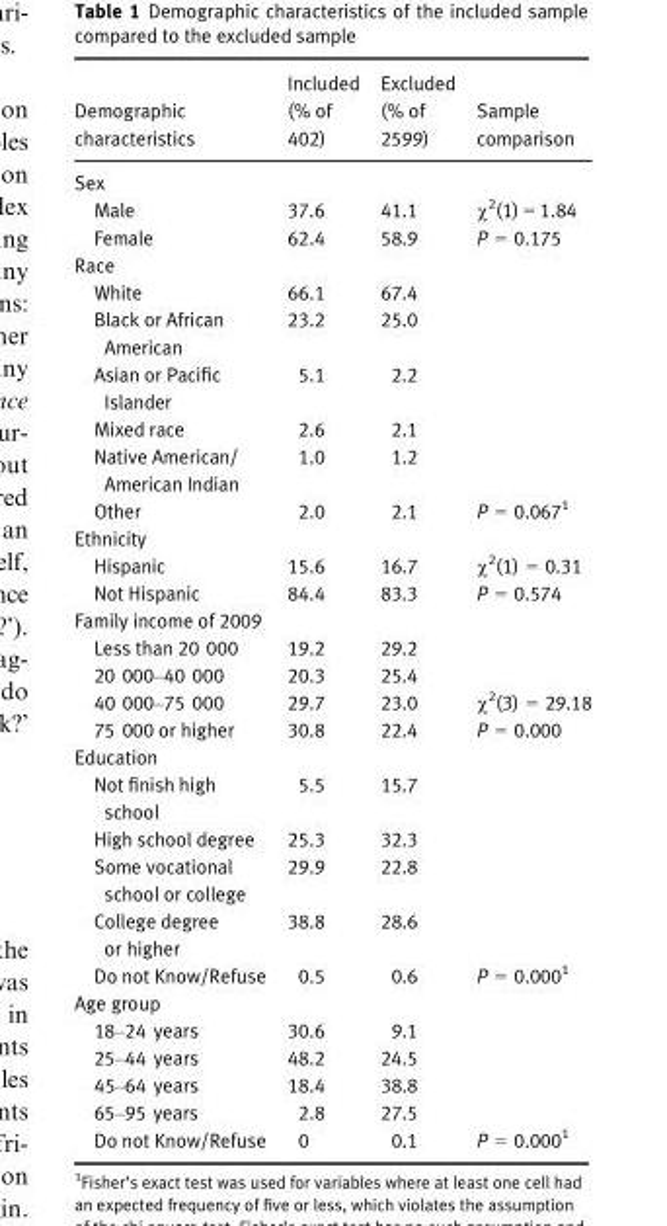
<table><thead><tr><td>Demographic characteristics</td><td>Included (% of 402)</td><td>Excluded (% of 2599)</td><td>Sample comparison</td></tr></thead><tbody><tr><td colspan="4">Sex</td></tr><tr><td>Male</td><td>37.6</td><td>41.1</td><td>χ<sup>2</sup>(1) = 1.84</td></tr><tr><td>Female</td><td>62.4</td><td>58.9</td><td>P = 0.175</td></tr><tr><td colspan="4">Race</td></tr><tr><td>White</td><td>66.1</td><td>67.4</td><td></td></tr><tr><td>Black or African American</td><td>23.2</td><td>25.0</td><td></td></tr><tr><td>Asian or Pacific Islander</td><td>5.1</td><td>2.2</td><td></td></tr><tr><td>Mixed race</td><td>2.6</td><td>2.1</td><td></td></tr><tr><td>Native American/ American Indian</td><td>1.0</td><td>1.2</td><td></td></tr><tr><td>Other</td><td>2.0</td><td>2.1</td><td>P = 0.0671</td></tr><tr><td colspan="4">Ethnicity</td></tr><tr><td>Hispanic</td><td>15.6</td><td>16.7</td><td>χ<sup>2</sup>(1) = 0.31</td></tr><tr><td>Not Hispanic</td><td>84.4</td><td>83.3</td><td>P = 0.574</td></tr><tr><td colspan="4">Family income of 2009</td></tr><tr><td>Less than 20 000</td><td>19.2</td><td>29.2</td><td></td></tr><tr><td>20 000–40 000</td><td>20.3</td><td>25.4</td><td></td></tr><tr><td>40 000–75 000</td><td>29.7</td><td>23.0</td><td>χ<sup>2</sup>(3) = 29.18</td></tr><tr><td>75 000 or higher</td><td>30.8</td><td>22.4</td><td>P = 0.000</td></tr><tr><td colspan="4">Education</td></tr><tr><td>Not finish high school</td><td>5.5</td><td>15.7</td><td></td></tr><tr><td>High school degree</td><td>25.3</td><td>32.3</td><td></td></tr><tr><td>Some vocational school or college</td><td>29.9</td><td>22.8</td><td></td></tr><tr><td>College degree or higher</td><td>38.8</td><td>28.6</td><td></td></tr><tr><td>Do not Know/Refuse</td><td>0.5</td><td>0.6</td><td>P = 0.0001</td></tr><tr><td colspan="4">Age group</td></tr><tr><td>18–24 years</td><td>30.6</td><td>9.1</td><td></td></tr><tr><td>25–44 years</td><td>48.2</td><td>24.5</td><td></td></tr><tr><td>45–64 years</td><td>18.4</td><td>38.8</td><td></td></tr><tr><td>65–95 years</td><td>2.8</td><td>27.5</td><td></td></tr><tr><td>Do not Know/Refuse</td><td>0</td><td>0.1</td><td>P = 0.0001</td></tr></tbody></table>